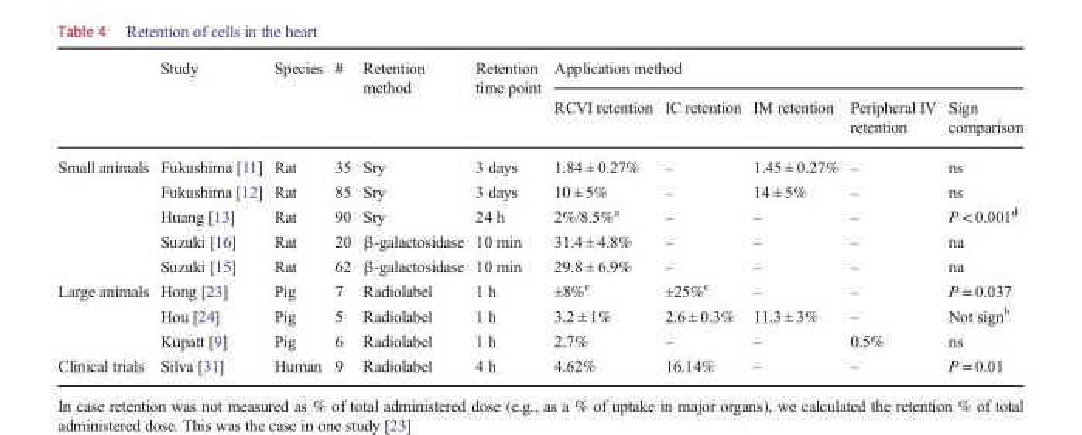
<table><thead><tr><td rowspan="2"></td><td rowspan="2">Study</td><td rowspan="2">Species</td><td rowspan="2">#</td><td rowspan="2">Retention method</td><td rowspan="2">Retention time point</td><td colspan="5">Application method</td></tr><tr><td>RCVI retention</td><td>IC retention</td><td>IM retention</td><td>Peripheral IV retention</td><td>Sign comparison</td></tr></thead><tbody><tr><td rowspan="5">Small animals</td><td>Fukushima [11]</td><td>Rat</td><td>35</td><td>Sry</td><td>3 days</td><td>1.84 ± 0.27%</td><td>–</td><td>1.45 ± 0.27%</td><td>–</td><td>ns</td></tr><tr><td>Fukushima [12]</td><td>Rat</td><td>85</td><td>Sry</td><td>3 days</td><td>10 ± 5%</td><td>–</td><td>14 ± 5%</td><td>–</td><td>ns</td></tr><tr><td>Huang [13]</td><td>Rat</td><td>90</td><td>Sry</td><td>24 h</td><td>2%/8.5%<sup>a</sup></td><td>–</td><td>–</td><td>–</td><td>P &lt; 0.001<sup>d</sup></td></tr><tr><td>Suzuki [16]</td><td>Rat</td><td>20</td><td>β-galactosidase</td><td>10 min</td><td>31.4 ± 4.8%</td><td>–</td><td>–</td><td>–</td><td>na</td></tr><tr><td>Suzuki [15]</td><td>Rat</td><td>62</td><td>β-galactosidase</td><td>10 min</td><td>29.8 ± 6.9%</td><td>–</td><td>–</td><td>–</td><td>na</td></tr><tr><td rowspan="3">Large animals</td><td>Hong [23]</td><td>Pig</td><td>7</td><td>Radiolabel</td><td>1 h</td><td>±8%<sup>c</sup></td><td>±25%<sup>c</sup></td><td>–</td><td>–</td><td>P = 0.037</td></tr><tr><td>Hou [24]</td><td>Pig</td><td>5</td><td>Radiolabel</td><td>1 h</td><td>3.2 ± 1%</td><td>2.6 ± 0.3%</td><td>11.3 ± 3%</td><td>–</td><td>Not sign<sup>b</sup></td></tr><tr><td>Kupatt [9]</td><td>Pig</td><td>6</td><td>Radiolabel</td><td>1 h</td><td>2.7%</td><td>–</td><td>–</td><td>0.5%</td><td>ns</td></tr><tr><td>Clinical trials</td><td>Silva [31]</td><td>Human</td><td>9</td><td>Radiolabel</td><td>4 h</td><td>4.62%</td><td>16.14%</td><td>–</td><td>–</td><td>P = 0.01</td></tr></tbody></table>